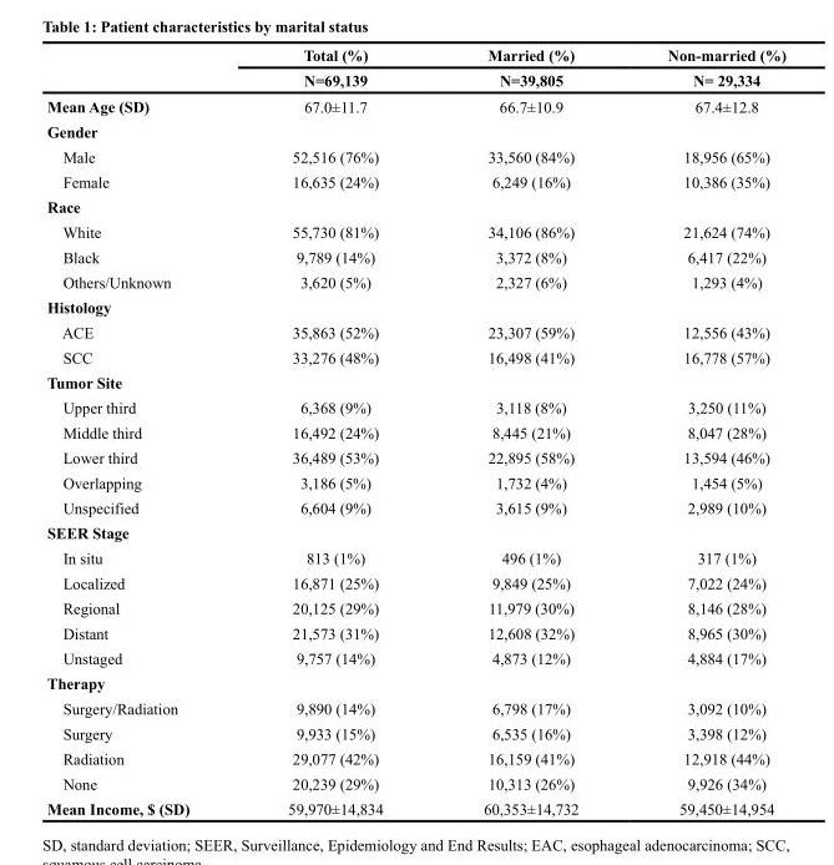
<table><thead><tr><td rowspan="2"></td><td rowspan="2">Total (%) N=69,139</td><td rowspan="2">Married (%) N=39,805</td><td rowspan="2">Non-married (%) N= 29,334</td></tr><tr></tr></thead><tbody><tr><td>Mean Age (SD)</td><td>67.0±11.7</td><td>66.7±10.9</td><td>67.4±12.8</td></tr><tr><td colspan="4">Gender</td></tr><tr><td>Male</td><td>52,516 (76%)</td><td>33,560 (84%)</td><td>18,956 (65%)</td></tr><tr><td>Female</td><td>16,635 (24%)</td><td>6,249 (16%)</td><td>10,386 (35%)</td></tr><tr><td colspan="4">Race</td></tr><tr><td>White</td><td>55,730 (81%)</td><td>34,106 (86%)</td><td>21,624 (74%)</td></tr><tr><td>Black</td><td>9,789 (14%)</td><td>3,372 (8%)</td><td>6,417 (22%)</td></tr><tr><td>Others/Unknown</td><td>3,620 (5%)</td><td>2,327 (6%)</td><td>1,293 (4%)</td></tr><tr><td colspan="4">Histology</td></tr><tr><td>ACE</td><td>35,863 (52%)</td><td>23,307 (59%)</td><td>12,556 (43%)</td></tr><tr><td>SCC</td><td>33,276 (48%)</td><td>16,498 (41%)</td><td>16,778 (57%)</td></tr><tr><td colspan="4">Tumor Site</td></tr><tr><td>Upper third</td><td>6,368 (9%)</td><td>3,118 (8%)</td><td>3,250 (11%)</td></tr><tr><td>Middle third</td><td>16,492 (24%)</td><td>8,445 (21%)</td><td>8,047 (28%)</td></tr><tr><td>Lower third</td><td>36,489 (53%)</td><td>22,895 (58%)</td><td>13,594 (46%)</td></tr><tr><td>Overlapping</td><td>3,186 (5%)</td><td>1,732 (4%)</td><td>1,454 (5%)</td></tr><tr><td>Unspecified</td><td>6,604 (9%)</td><td>3,615 (9%)</td><td>2,989 (10%)</td></tr><tr><td colspan="4">SEER Stage</td></tr><tr><td>In situ</td><td>813 (1%)</td><td>496 (1%)</td><td>317 (1%)</td></tr><tr><td>Localized</td><td>16,871 (25%)</td><td>9,849 (25%)</td><td>7,022 (24%)</td></tr><tr><td>Regional</td><td>20,125 (29%)</td><td>11,979 (30%)</td><td>8,146 (28%)</td></tr><tr><td>Distant</td><td>21,573 (31%)</td><td>12,608 (32%)</td><td>8,965 (30%)</td></tr><tr><td>Unstaged</td><td>9,757 (14%)</td><td>4,873 (12%)</td><td>4,884 (17%)</td></tr><tr><td colspan="4">Therapy</td></tr><tr><td>Surgery/Radiation</td><td>9,890 (14%)</td><td>6,798 (17%)</td><td>3,092 (10%)</td></tr><tr><td>Surgery</td><td>9,933 (15%)</td><td>6,535 (16%)</td><td>3,398 (12%)</td></tr><tr><td>Radiation</td><td>29,077 (42%)</td><td>16,159 (41%)</td><td>12,918 (44%)</td></tr><tr><td>None</td><td>20,239 (29%)</td><td>10,313 (26%)</td><td>9,926 (34%)</td></tr><tr><td>Mean Income, $ (SD)</td><td>59,970±14,834</td><td>60,353±14,732</td><td>59,450±14,954</td></tr></tbody></table>